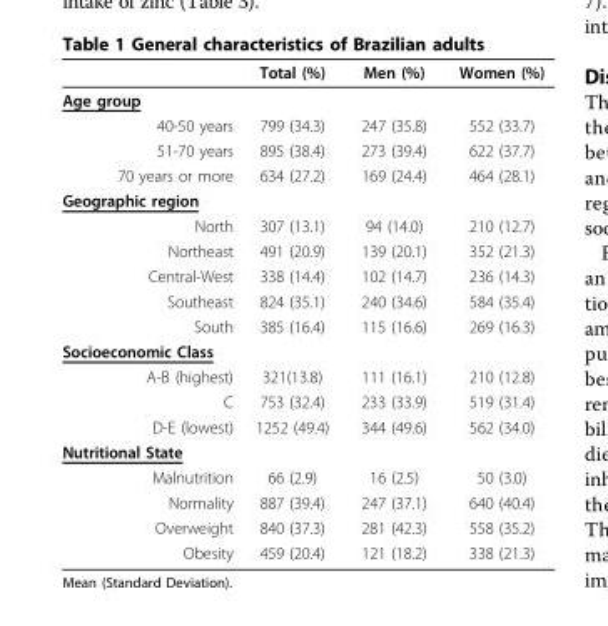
<table><thead><tr><td></td><td>Total (%)</td><td>Men (%)</td><td>Women (%)</td></tr></thead><tbody><tr><td colspan="4">Age group</td></tr><tr><td>40-50 years</td><td>799 (34.3)</td><td>247 (35.8)</td><td>552 (33.7)</td></tr><tr><td>51-70 years</td><td>895 (38.4)</td><td>273 (39.4)</td><td>622 (37.7)</td></tr><tr><td>70 years or more</td><td>634 (27.2)</td><td>169 (24.4)</td><td>464 (28.1)</td></tr><tr><td colspan="4">Geographic region</td></tr><tr><td>North</td><td>307 (13.1)</td><td>94 (14.0)</td><td>210 (12.7)</td></tr><tr><td>Northeast</td><td>491 (20.9)</td><td>139 (20.1)</td><td>352 (21.3)</td></tr><tr><td>Central-West</td><td>338 (14.4)</td><td>102 (14.7)</td><td>236 (14.3)</td></tr><tr><td>Southeast</td><td>824 (35.1)</td><td>240 (34.6)</td><td>584 (35.4)</td></tr><tr><td>South</td><td>385 (16.4)</td><td>115 (16.6)</td><td>269 (16.3)</td></tr><tr><td colspan="4">Socioeconomic Class</td></tr><tr><td>A-B (highest)</td><td>321(13.8)</td><td>111 (16.1)</td><td>210 (12.8)</td></tr><tr><td>C</td><td>753 (32.4)</td><td>233 (33.9)</td><td>519 (31.4)</td></tr><tr><td>D-E (lowest)</td><td>1252 (49.4)</td><td>344 (49.6)</td><td>562 (34.0)</td></tr><tr><td colspan="4">Nutritional State</td></tr><tr><td>Malnutrition</td><td>66 (2.9)</td><td>16 (2.5)</td><td>50 (3.0)</td></tr><tr><td>Normality</td><td>887 (39.4)</td><td>247 (37.1)</td><td>640 (40.4)</td></tr><tr><td>Overweight</td><td>840 (37.3)</td><td>281 (42.3)</td><td>558 (35.2)</td></tr><tr><td>Obesity</td><td>459 (20.4)</td><td>121 (18.2)</td><td>338 (21.3)</td></tr></tbody></table>